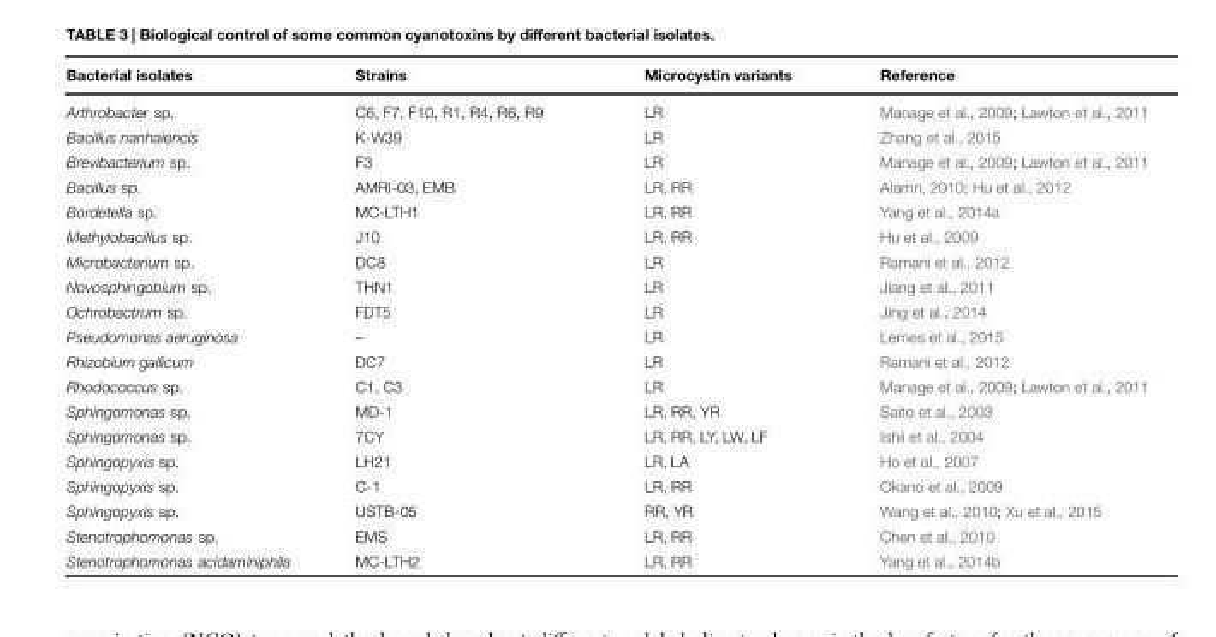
<table><thead><tr><td>Bacterial isolates</td><td>Strains</td><td>Microcystin variants</td><td>Reference</td></tr></thead><tbody><tr><td>Arthrobacter sp.</td><td>C6, F7, F10, R1, R4, R6, R9</td><td>LR</td><td>Manage et al., 2009; Lawton et al., 2011</td></tr><tr><td>Bacillus nanhaiencis</td><td>K-W39</td><td>LR</td><td>Zhang et al., 2015</td></tr><tr><td>Brevibacterium sp.</td><td>F3</td><td>LR</td><td>Manage et al., 2009; Lawton et al., 2011</td></tr><tr><td>Bacillus sp.</td><td>AMRI-03, EMB</td><td>LR, RR</td><td>Alamri, 2010; Hu et al., 2012</td></tr><tr><td>Bordetella sp.</td><td>MC-LTH1</td><td>LR, RR</td><td>Yang et al., 2014a</td></tr><tr><td>Methylobacillus sp.</td><td>J10</td><td>LR, RR</td><td>Hu et al., 2009</td></tr><tr><td>Microbacterium sp.</td><td>DC8</td><td>LR</td><td>Ramani et al., 2012</td></tr><tr><td>Novosphingobium sp.</td><td>THN1</td><td>LR</td><td>Jiang et al., 2011</td></tr><tr><td>Ochrobactrum sp.</td><td>FDT5</td><td>LR</td><td>Jing et al., 2014</td></tr><tr><td>Pseudomonas aeruginosa</td><td>–</td><td>LR</td><td>Lemes et al., 2015</td></tr><tr><td>Rhizobium gallicum</td><td>DC7</td><td>LR</td><td>Ramani et al., 2012</td></tr><tr><td>Rhodococcus sp.</td><td>C1, C3</td><td>LR</td><td>Manage et al., 2009; Lawton et al., 2011</td></tr><tr><td>Sphingomonas sp.</td><td>MD-1</td><td>LR, RR, YR</td><td>Saito et al., 2003</td></tr><tr><td>Sphingomonas sp.</td><td>7CY</td><td>LR, RR, LY, LW, LF</td><td>Ishii et al., 2004</td></tr><tr><td>Sphingopyxis sp.</td><td>LH21</td><td>LR, LA</td><td>Ho et al., 2007</td></tr><tr><td>Sphingopyxis sp.</td><td>C-1</td><td>LR, RR</td><td>Okano et al., 2009</td></tr><tr><td>Sphingopyxis sp.</td><td>USTB-05</td><td>RR, YR</td><td>Wang et al., 2010; Xu et al., 2015</td></tr><tr><td>Stenotrophomonas sp.</td><td>EMS</td><td>LR, RR</td><td>Chen et al., 2010</td></tr><tr><td>Stenotrophomonas acidaminiphila</td><td>MC-LTH2</td><td>LR, RR</td><td>Yang et al., 2014b</td></tr></tbody></table>